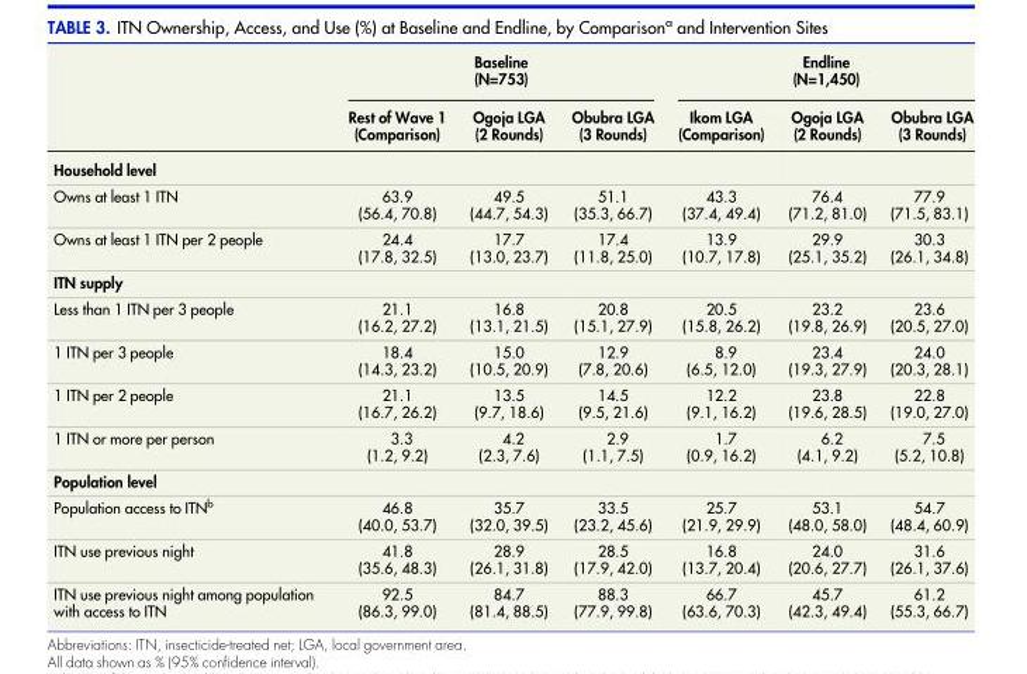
<table><thead><tr><td rowspan="2"></td><td colspan="3">Baseline (N=753)</td><td colspan="3">Endline (N=1,450)</td></tr><tr><td>Rest of Wave 1 (Comparison)</td><td>Ogoja LGA (2 Rounds)</td><td>Obubra LGA (3 Rounds)</td><td>Ikom LGA (Comparison)</td><td>Ogoja LGA (2 Rounds)</td><td>Obubra LGA (3 Rounds)</td></tr></thead><tbody><tr><td colspan="7">Household level</td></tr><tr><td>Owns at least 1 ITN</td><td>63.9 (56.4, 70.8)</td><td>49.5 (44.7, 54.3)</td><td>51.1 (35.3, 66.7)</td><td>43.3 (37.4, 49.4)</td><td>76.4 (71.2, 81.0)</td><td>77.9 (71.5, 83.1)</td></tr><tr><td>Owns at least 1 ITN per 2 people</td><td>24.4 (17.8, 32.5)</td><td>17.7 (13.0, 23.7)</td><td>17.4 (11.8, 25.0)</td><td>13.9 (10.7, 17.8)</td><td>29.9 (25.1, 35.2)</td><td>30.3 (26.1, 34.8)</td></tr><tr><td colspan="7">ITN supply</td></tr><tr><td>Less than 1 ITN per 3 people</td><td>21.1 (16.2, 27.2)</td><td>16.8 (13.1, 21.5)</td><td>20.8 (15.1, 27.9)</td><td>20.5 (15.8, 26.2)</td><td>23.2 (19.8, 26.9)</td><td>23.6 (20.5, 27.0)</td></tr><tr><td>1 ITN per 3 people</td><td>18.4 (14.3, 23.2)</td><td>15.0 (10.5, 20.9)</td><td>12.9 (7.8, 20.6)</td><td>8.9 (6.5, 12.0)</td><td>23.4 (19.3, 27.9)</td><td>24.0 (20.3, 28.1)</td></tr><tr><td>1 ITN per 2 people</td><td>21.1 (16.7, 26.2)</td><td>13.5 (9.7, 18.6)</td><td>14.5 (9.5, 21.6)</td><td>12.2 (9.1, 16.2)</td><td>23.8 (19.6, 28.5)</td><td>22.8 (19.0, 27.0)</td></tr><tr><td>1 ITN or more per person</td><td>3.3 (1.2, 9.2)</td><td>4.2 (2.3, 7.6)</td><td>2.9 (1.1, 7.5)</td><td>1.7 (0.9, 16.2)</td><td>6.2 (4.1, 9.2)</td><td>7.5 (5.2, 10.8)</td></tr><tr><td colspan="7">Population level</td></tr><tr><td>Population access to ITN<sup>b</sup></td><td>46.8 (40.0, 53.7)</td><td>35.7 (32.0, 39.5)</td><td>33.5 (23.2, 45.6)</td><td>25.7 (21.9, 29.9)</td><td>53.1 (48.0, 58.0)</td><td>54.7 (48.4, 60.9)</td></tr><tr><td>ITN use previous night</td><td>41.8 (35.6, 48.3)</td><td>28.9 (26.1, 31.8)</td><td>28.5 (17.9, 42.0)</td><td>16.8 (13.7, 20.4)</td><td>24.0 (20.6, 27.7)</td><td>31.6 (26.1, 37.6)</td></tr><tr><td>ITN use previous night among population with access to ITN</td><td>92.5 (86.3, 99.0)</td><td>84.7 (81.4, 88.5)</td><td>88.3 (77.9, 99.8)</td><td>66.7 (63.6, 70.3)</td><td>45.7 (42.3, 49.4)</td><td>61.2 (55.3, 66.7)</td></tr></tbody></table>